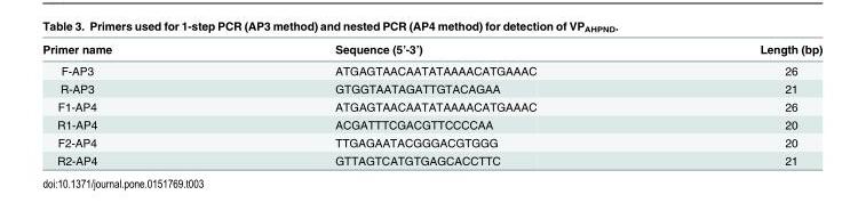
<table><thead><tr><td>Primer name</td><td>Sequence (5’-3’)</td><td>Length (bp)</td></tr></thead><tbody><tr><td>F-AP3</td><td>ATGAGTAACAATATAAAACATGAAAC</td><td>26</td></tr><tr><td>R-AP3</td><td>GTGGTAATAGATTGTACAGAA</td><td>21</td></tr><tr><td>F1-AP4</td><td>ATGAGTAACAATATAAAACATGAAAC</td><td>26</td></tr><tr><td>R1-AP4</td><td>ACGATTTCGACGTTCCCCAA</td><td>20</td></tr><tr><td>F2-AP4</td><td>TTGAGAATACGGGACGTGGG</td><td>20</td></tr><tr><td>R2-AP4</td><td>GTTAGTCATGTGAGCACCTTC</td><td>21</td></tr></tbody></table>